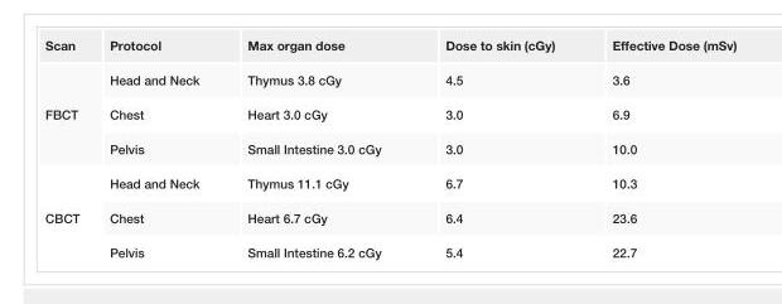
<table><tbody><tr><td>Scan</td><td>Protocol</td><td>Max organ dose</td><td>Dose to skin (cGy)</td><td>Effective Dose (mSv)</td></tr><tr><td rowspan="3">FBCT</td><td>Head and Neck</td><td>Thymus 3.8 cGy</td><td>4.5</td><td>3.6</td></tr><tr><td>Chest</td><td>Heart 3.0 cGy</td><td>3.0</td><td>6.9</td></tr><tr><td>Pelvis</td><td>Small Intestine 3.0 cGy</td><td>3.0</td><td>10.0</td></tr><tr><td rowspan="3">CBCT</td><td>Head and Neck</td><td>Thymus 11.1 cGy</td><td>6.7</td><td>10.3</td></tr><tr><td>Chest</td><td>Heart 6.7 cGy</td><td>6.4</td><td>23.6</td></tr><tr><td>Pelvis</td><td>Small Intestine 6.2 cGy</td><td>5.4</td><td>22.7</td></tr></tbody></table>